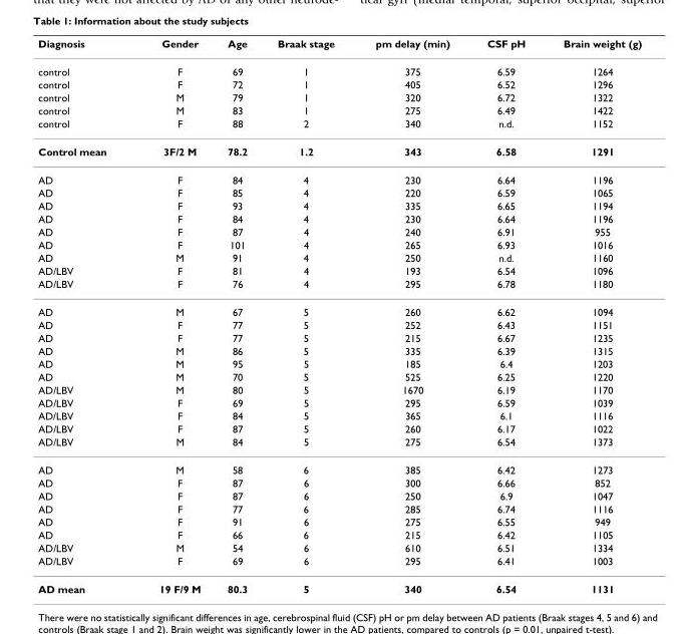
<table><thead><tr><td>Diagnosis</td><td>Gender</td><td>Age</td><td>Braak stage</td><td>pm delay (min)</td><td>CSF pH</td><td>Brain weight (g)</td></tr></thead><tbody><tr><td>control</td><td>F</td><td>69</td><td>1</td><td>375</td><td>6.59</td><td>1264</td></tr><tr><td>control</td><td>F</td><td>72</td><td>1</td><td>405</td><td>6.52</td><td>1296</td></tr><tr><td>control</td><td>M</td><td>79</td><td>1</td><td>320</td><td>6.72</td><td>1322</td></tr><tr><td>control</td><td>M</td><td>83</td><td>1</td><td>275</td><td>6.49</td><td>1422</td></tr><tr><td>control</td><td>F</td><td>88</td><td>2</td><td>340</td><td>n.d.</td><td>1152</td></tr><tr><td>Control mean</td><td>3F/2 M</td><td>78.2</td><td>1.2</td><td>343</td><td>6.58</td><td>1291</td></tr><tr><td>AD</td><td>F</td><td>84</td><td>4</td><td>230</td><td>6.64</td><td>1196</td></tr><tr><td>AD</td><td>F</td><td>85</td><td>4</td><td>220</td><td>6.59</td><td>1065</td></tr><tr><td>AD</td><td>F</td><td>93</td><td>4</td><td>335</td><td>6.65</td><td>1194</td></tr><tr><td>AD</td><td>F</td><td>84</td><td>4</td><td>230</td><td>6.64</td><td>1196</td></tr><tr><td>AD</td><td>F</td><td>87</td><td>4</td><td>240</td><td>6.91</td><td>955</td></tr><tr><td>AD</td><td>F</td><td>101</td><td>4</td><td>265</td><td>6.93</td><td>1016</td></tr><tr><td>AD</td><td>M</td><td>91</td><td>4</td><td>250</td><td>n.d.</td><td>1160</td></tr><tr><td>AD/LBV</td><td>F</td><td>81</td><td>4</td><td>193</td><td>6.54</td><td>1096</td></tr><tr><td>AD/LBV</td><td>F</td><td>76</td><td>4</td><td>295</td><td>6.78</td><td>1180</td></tr><tr><td>AD</td><td>M</td><td>67</td><td>5</td><td>260</td><td>6.62</td><td>1094</td></tr><tr><td>AD</td><td>F</td><td>77</td><td>5</td><td>252</td><td>6.43</td><td>1151</td></tr><tr><td>AD</td><td>F</td><td>77</td><td>5</td><td>215</td><td>6.67</td><td>1235</td></tr><tr><td>AD</td><td>M</td><td>86</td><td>5</td><td>335</td><td>6.39</td><td>1315</td></tr><tr><td>AD</td><td>M</td><td>95</td><td>5</td><td>185</td><td>6.4</td><td>1203</td></tr><tr><td>AD</td><td>M</td><td>70</td><td>5</td><td>525</td><td>6.25</td><td>1220</td></tr><tr><td>AD/LBV</td><td>M</td><td>80</td><td>5</td><td>1670</td><td>6.19</td><td>1170</td></tr><tr><td>AD/LBV</td><td>F</td><td>69</td><td>5</td><td>295</td><td>6.59</td><td>1039</td></tr><tr><td>AD/LBV</td><td>F</td><td>84</td><td>5</td><td>365</td><td>6.1</td><td>1116</td></tr><tr><td>AD/LBV</td><td>F</td><td>87</td><td>5</td><td>260</td><td>6.17</td><td>1022</td></tr><tr><td>AD/LBV</td><td>M</td><td>84</td><td>5</td><td>275</td><td>6.54</td><td>1373</td></tr><tr><td>AD</td><td>M</td><td>58</td><td>6</td><td>385</td><td>6.42</td><td>1273</td></tr><tr><td>AD</td><td>F</td><td>87</td><td>6</td><td>300</td><td>6.66</td><td>852</td></tr><tr><td>AD</td><td>F</td><td>87</td><td>6</td><td>250</td><td>6.9</td><td>1047</td></tr><tr><td>AD</td><td>F</td><td>77</td><td>6</td><td>285</td><td>6.74</td><td>1116</td></tr><tr><td>AD</td><td>F</td><td>91</td><td>6</td><td>275</td><td>6.55</td><td>949</td></tr><tr><td>AD</td><td>F</td><td>66</td><td>6</td><td>215</td><td>6.42</td><td>1105</td></tr><tr><td>AD/LBV</td><td>M</td><td>54</td><td>6</td><td>610</td><td>6.51</td><td>1334</td></tr><tr><td>AD/LBV</td><td>F</td><td>69</td><td>6</td><td>295</td><td>6.41</td><td>1003</td></tr><tr><td>AD mean</td><td>19 F/9 M</td><td>80.3</td><td>5</td><td>340</td><td>6.54</td><td>1131</td></tr></tbody></table>